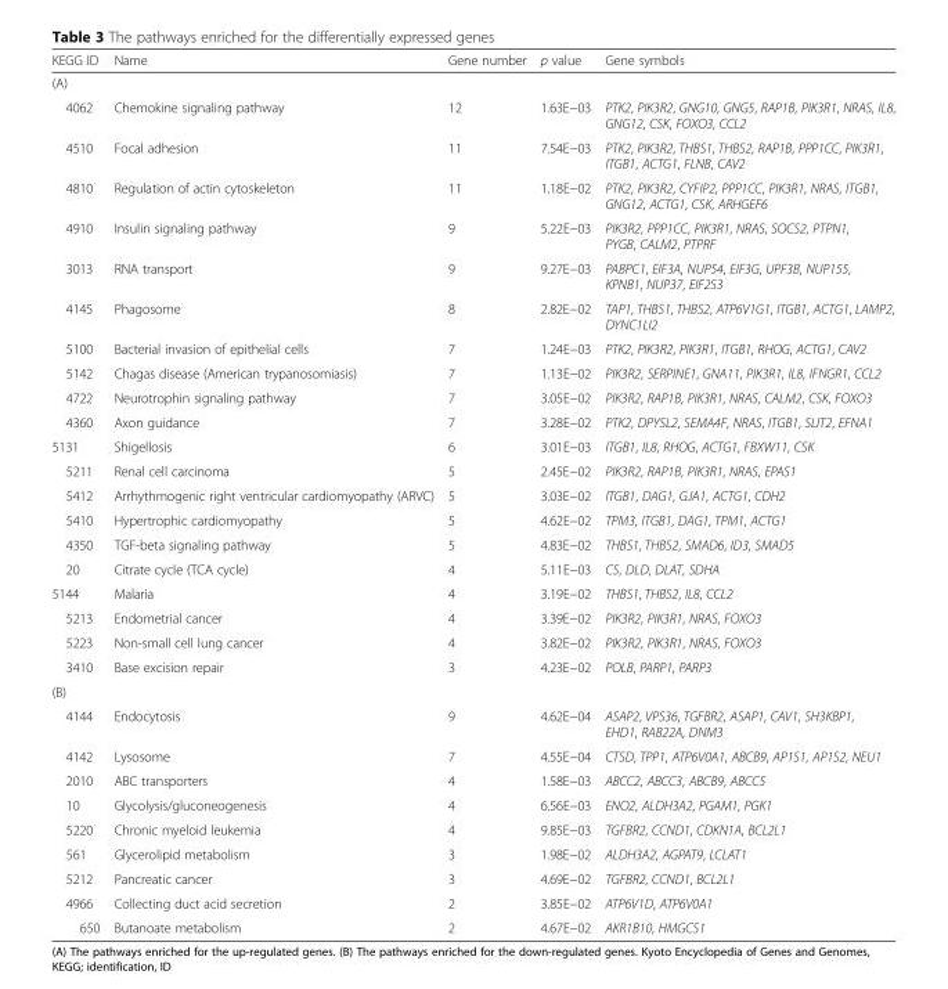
<table><thead><tr><td>KEGG ID</td><td>Name</td><td>Gene number</td><td>p value</td><td>Gene symbols</td></tr></thead><tbody><tr><td colspan="5">(A)</td></tr><tr><td>4062</td><td>Chemokine signaling pathway</td><td>12</td><td>1.63E−03</td><td>PTK2, PIK3R2, GNG10, GNG5, RAP1B, PIK3R1, NRAS, IL8, GNG12, CSK, FOXO3, CCL2</td></tr><tr><td>4510</td><td>Focal adhesion</td><td>11</td><td>7.54E−03</td><td>PTK2, PIK3R2, THBS1, THBS2, RAP1B, PPP1CC, PIK3R1, ITGB1, ACTG1, FLNB, CAV2</td></tr><tr><td>4810</td><td>Regulation of actin cytoskeleton</td><td>11</td><td>1.18E−02</td><td>PTK2, PIK3R2, CYFIP2, PPP1CC, PIK3R1, NRAS, ITGB1, GNG12, ACTG1, CSK, ARHGEF6</td></tr><tr><td>4910</td><td>Insulin signaling pathway</td><td>9</td><td>5.22E−03</td><td>PIK3R2, PPP1CC, PIK3R1, NRAS, SOCS2, PTPN1, PYGB, CALM2, PTPRF</td></tr><tr><td>3013</td><td>RNA transport</td><td>9</td><td>9.27E−03</td><td>PABPC1, EIF3A, NUP54, EIF3G, UPF3B, NUP155, KPNB1, NUP37, EIF2S3</td></tr><tr><td>4145</td><td>Phagosome</td><td>8</td><td>2.82E−02</td><td>TAP1, THBS1, THBS2, ATP6V1G1, ITGB1, ACTG1, LAMP2, DYNC1LI2</td></tr><tr><td>5100</td><td>Bacterial invasion of epithelial cells</td><td>7</td><td>1.24E−03</td><td>PTK2, PIK3R2, PIK3R1, ITGB1, RHOG, ACTG1, CAV2</td></tr><tr><td>5142</td><td>Chagas disease (American trypanosomiasis)</td><td>7</td><td>1.13E−02</td><td>PIK3R2, SERPINE1, GNA11, PIK3R1, IL8, IFNGR1, CCL2</td></tr><tr><td>4722</td><td>Neurotrophin signaling pathway</td><td>7</td><td>3.05E−02</td><td>PIK3R2, RAP1B, PIK3R1, NRAS, CALM2, CSK, FOXO3</td></tr><tr><td>4360</td><td>Axon guidance</td><td>7</td><td>3.28E−02</td><td>PTK2, DPYSL2, SEMA4F, NRAS, ITGB1, SLIT2, EFNA1</td></tr><tr><td>5131</td><td>Shigellosis</td><td>6</td><td>3.01E−03</td><td>ITGB1, IL8, RHOG, ACTG1, FBXW11, CSK</td></tr><tr><td>5211</td><td>Renal cell carcinoma</td><td>5</td><td>2.45E−02</td><td>PIK3R2, RAP1B, PIK3R1, NRAS, EPAS1</td></tr><tr><td>5412</td><td>Arrhythmogenic right ventricular cardiomyopathy (ARVC)</td><td>5</td><td>3.03E−02</td><td>ITGB1, DAG1, GJA1, ACTG1, CDH2</td></tr><tr><td>5410</td><td>Hypertrophic cardiomyopathy</td><td>5</td><td>4.62E−02</td><td>TPM3, ITGB1, DAG1, TPM1, ACTG1</td></tr><tr><td>4350</td><td>TGF-beta signaling pathway</td><td>5</td><td>4.83E−02</td><td>THBS1, THBS2, SMAD6, ID3, SMAD5</td></tr><tr><td>20</td><td>Citrate cycle (TCA cycle)</td><td>4</td><td>5.11E−03</td><td>CS, DLD, DLAT, SDHA</td></tr><tr><td>5144</td><td>Malaria</td><td>4</td><td>3.19E−02</td><td>THBS1, THBS2, IL8, CCL2</td></tr><tr><td>5213</td><td>Endometrial cancer</td><td>4</td><td>3.39E−02</td><td>PIK3R2, PIK3R1, NRAS, FOXO3</td></tr><tr><td>5223</td><td>Non-small cell lung cancer</td><td>4</td><td>3.82E−02</td><td>PIK3R2, PIK3R1, NRAS, FOXO3</td></tr><tr><td>3410</td><td>Base excision repair</td><td>3</td><td>4.23E−02</td><td>POLB, PARP1, PARP3</td></tr><tr><td colspan="5">(B)</td></tr><tr><td>4144</td><td>Endocytosis</td><td>9</td><td>4.62E−04</td><td>ASAP2, VPS36, TGFBR2, ASAP1, CAV1, SH3KBP1, EHD1, RAB22A, DNM3</td></tr><tr><td>4142</td><td>Lysosome</td><td>7</td><td>4.55E−04</td><td>CTSD, TPP1, ATP6V0A1, ABCB9, AP1S1, AP1S2, NEU1</td></tr><tr><td>2010</td><td>ABC transporters</td><td>4</td><td>1.58E−03</td><td>ABCC2, ABCC3, ABCB9, ABCC5</td></tr><tr><td>10</td><td>Glycolysis/gluconeogenesis</td><td>4</td><td>6.56E−03</td><td>ENO2, ALDH3A2, PGAM1, PGK1</td></tr><tr><td>5220</td><td>Chronic myeloid leukemia</td><td>4</td><td>9.85E−03</td><td>TGFBR2, CCND1, CDKN1A, BCL2L1</td></tr><tr><td>561</td><td>Glycerolipid metabolism</td><td>3</td><td>1.98E−02</td><td>ALDH3A2, AGPAT9, LCLAT1</td></tr><tr><td>5212</td><td>Pancreatic cancer</td><td>3</td><td>4.69E−02</td><td>TGFBR2, CCND1, BCL2L1</td></tr><tr><td>4966</td><td>Collecting duct acid secretion</td><td>2</td><td>3.85E−02</td><td>ATP6V1D, ATP6V0A1</td></tr><tr><td>650</td><td>Butanoate metabolism</td><td>2</td><td>4.67E−02</td><td>AKR1B10, HMGCS1</td></tr></tbody></table>